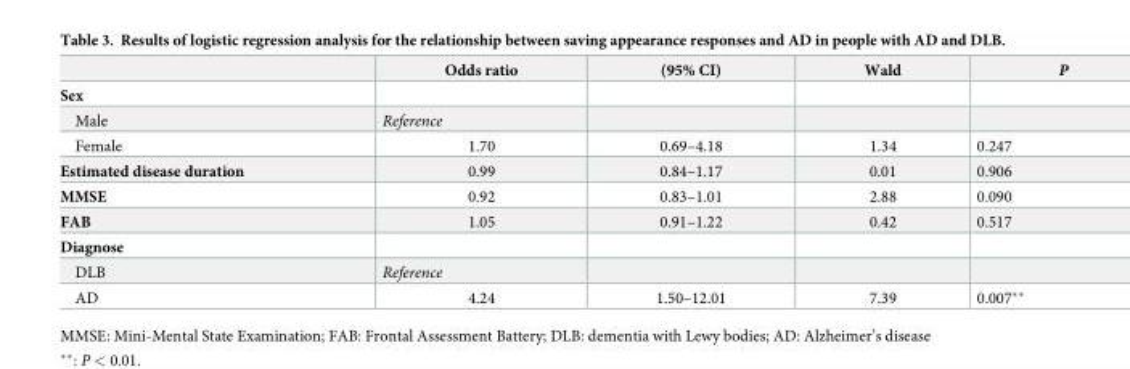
<table><thead><tr><td></td><td>Odds ratio</td><td>(95% CI)</td><td>Wald</td><td>P</td></tr></thead><tbody><tr><td colspan="5">Sex</td></tr><tr><td>Male</td><td>Reference</td><td></td><td></td><td></td></tr><tr><td>Female</td><td>1.70</td><td>0.69–4.18</td><td>1.34</td><td>0.247</td></tr><tr><td>Estimated disease duration</td><td>0.99</td><td>0.84–1.17</td><td>0.01</td><td>0.906</td></tr><tr><td>MMSE</td><td>0.92</td><td>0.83–1.01</td><td>2.88</td><td>0.090</td></tr><tr><td>FAB</td><td>1.05</td><td>0.91–1.22</td><td>0.42</td><td>0.517</td></tr><tr><td colspan="5">Diagnose</td></tr><tr><td>DLB</td><td>Reference</td><td></td><td></td><td></td></tr><tr><td>AD</td><td>4.24</td><td>1.50–12.01</td><td>7.39</td><td>0.007**</td></tr></tbody></table>